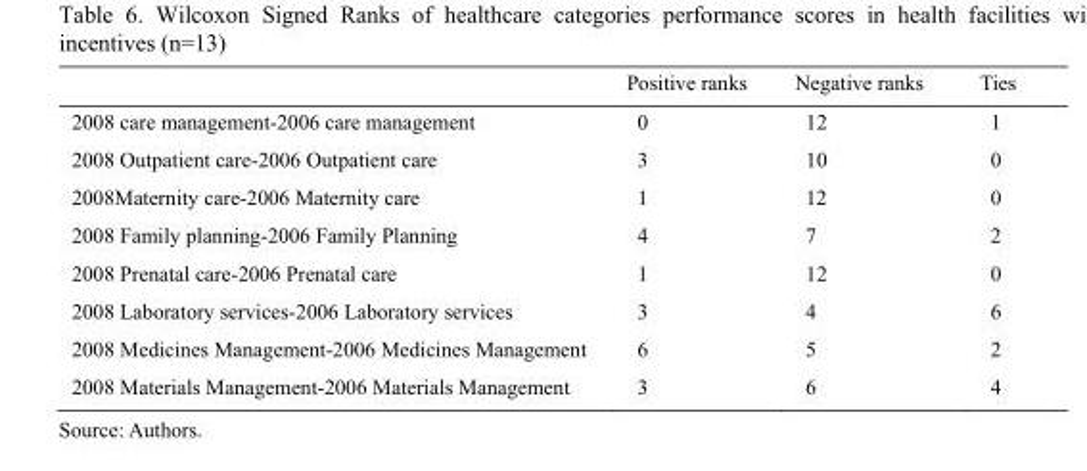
<table><thead><tr><td></td><td>Positive ranks</td><td>Negative ranks</td><td>Ties</td></tr></thead><tbody><tr><td>2008 care management-2006 care management</td><td>0</td><td>12</td><td>1</td></tr><tr><td>2008 Outpatient care-2006 Outpatient care</td><td>3</td><td>10</td><td>0</td></tr><tr><td>2008Maternity care-2006 Maternity care</td><td>1</td><td>12</td><td>0</td></tr><tr><td>2008 Family planning-2006 Family Planning</td><td>4</td><td>7</td><td>2</td></tr><tr><td>2008 Prenatal care-2006 Prenatal care</td><td>1</td><td>12</td><td>0</td></tr><tr><td>2008 Laboratory services-2006 Laboratory services</td><td>3</td><td>4</td><td>6</td></tr><tr><td>2008 Medicines Management-2006 Medicines Management</td><td>6</td><td>5</td><td>2</td></tr><tr><td>2008 Materials Management-2006 Materials Management</td><td>3</td><td>6</td><td>4</td></tr></tbody></table>